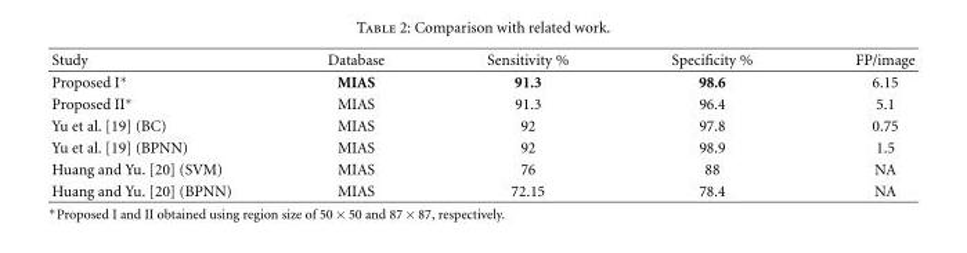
<table><thead><tr><td>Study</td><td>Database</td><td>Sensitivity %</td><td>Specificity %</td><td>FP/image</td></tr></thead><tbody><tr><td>Proposed I∗</td><td>MIAS</td><td>91.3</td><td>98.6</td><td>6.15</td></tr><tr><td>Proposed II∗</td><td>MIAS</td><td>91.3</td><td>96.4</td><td>5.1</td></tr><tr><td>Yu et al. [19] (BC)</td><td>MIAS</td><td>92</td><td>97.8</td><td>0.75</td></tr><tr><td>Yu et al. [19] (BPNN)</td><td>MIAS</td><td>92</td><td>98.9</td><td>1.5</td></tr><tr><td>Huang and Yu. [20] (SVM)</td><td>MIAS</td><td>76</td><td>88</td><td>NA</td></tr><tr><td>Huang and Yu. [20] (BPNN)</td><td>MIAS</td><td>72.15</td><td>78.4</td><td>NA</td></tr></tbody></table>